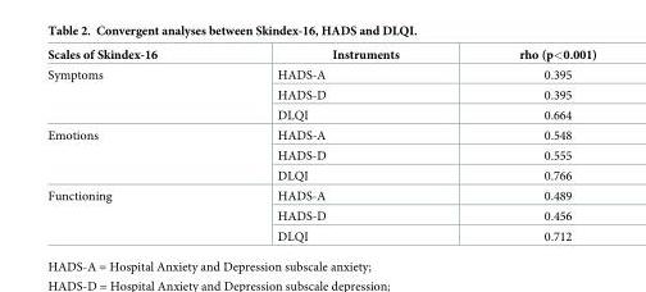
<table><thead><tr><td>Scales of Skindex-16</td><td>Instruments</td><td>rho (p&lt;0.001)</td></tr></thead><tbody><tr><td rowspan="3">Symptoms</td><td>HADS-A</td><td>0.395</td></tr><tr><td>HADS-D</td><td>0.395</td></tr><tr><td>DLQI</td><td>0.664</td></tr><tr><td rowspan="3">Emotions</td><td>HADS-A</td><td>0.548</td></tr><tr><td>HADS-D</td><td>0.555</td></tr><tr><td>DLQI</td><td>0.766</td></tr><tr><td rowspan="3">Functioning</td><td>HADS-A</td><td>0.489</td></tr><tr><td>HADS-D</td><td>0.456</td></tr><tr><td>DLQI</td><td>0.712</td></tr></tbody></table>